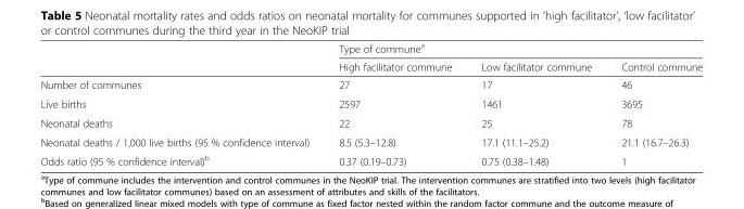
<table><thead><tr><td rowspan="2"></td><td colspan="3">Type of commune<sup>a</sup></td></tr><tr><td>High facilitator commune</td><td>Low facilitator commune</td><td>Control commune</td></tr></thead><tbody><tr><td>Number of communes</td><td>27</td><td>17</td><td>46</td></tr><tr><td>Live births</td><td>2597</td><td>1461</td><td>3695</td></tr><tr><td>Neonatal deaths</td><td>22</td><td>25</td><td>78</td></tr><tr><td>Neonatal deaths / 1,000 live births (95 % confidence interval)</td><td>8.5 (5.3–12.8)</td><td>17.1 (11.1–25.2)</td><td>21.1 (16.7–26.3)</td></tr><tr><td>Odds ratio (95 % confidence interval)<sup>b</sup></td><td>0.37 (0.19–0.73)</td><td>0.75 (0.38–1.48)</td><td>1</td></tr></tbody></table>